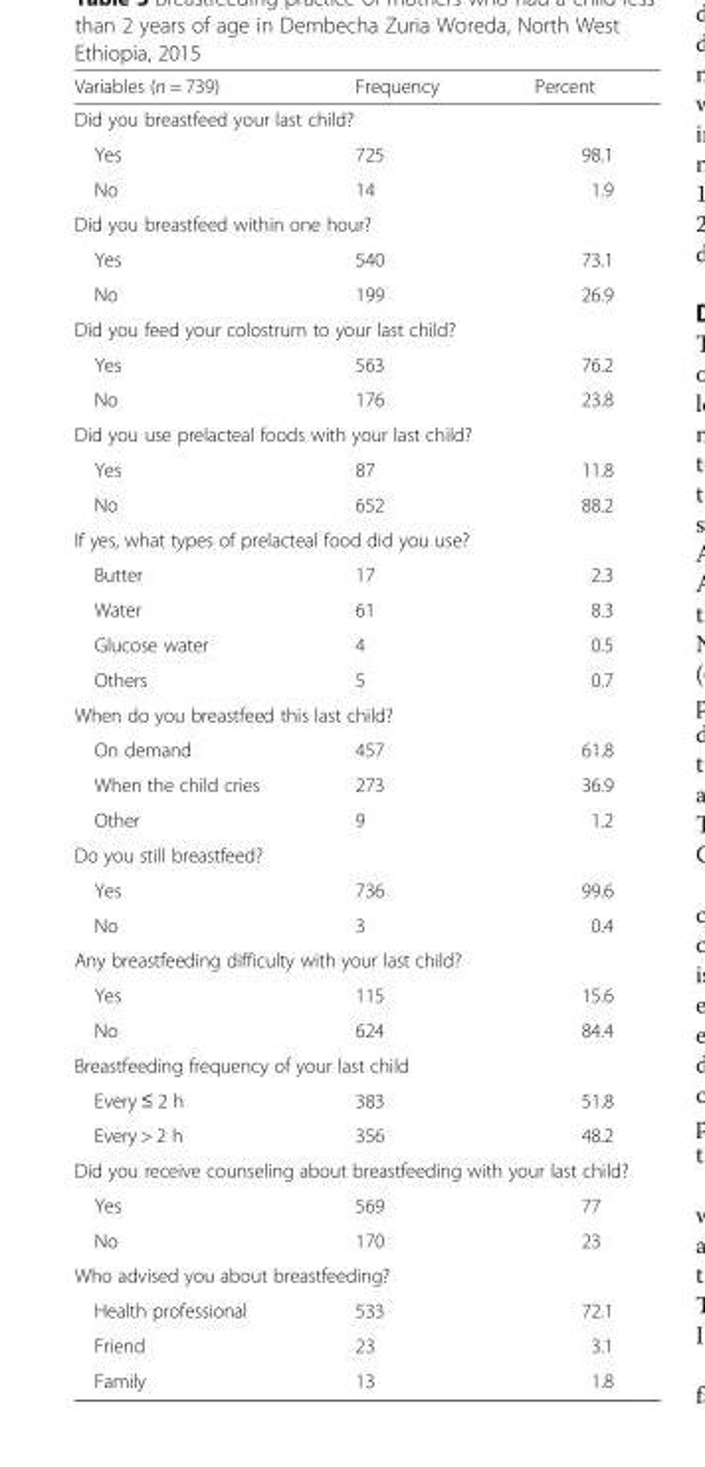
<table><thead><tr><td>Variables (n = 739)</td><td>Frequency</td><td>Percent</td></tr></thead><tbody><tr><td colspan="3">Did you breastfeed your last child?</td></tr><tr><td>Yes</td><td>725</td><td>98.1</td></tr><tr><td>No</td><td>14</td><td>1.9</td></tr><tr><td colspan="3">Did you breastfeed within one hour?</td></tr><tr><td>Yes</td><td>540</td><td>73.1</td></tr><tr><td>No</td><td>199</td><td>26.9</td></tr><tr><td colspan="3">Did you feed your colostrum to your last child?</td></tr><tr><td>Yes</td><td>563</td><td>76.2</td></tr><tr><td>No</td><td>176</td><td>23.8</td></tr><tr><td colspan="3">Did you use prelacteal foods with your last child?</td></tr><tr><td>Yes</td><td>87</td><td>11.8</td></tr><tr><td>No</td><td>652</td><td>88.2</td></tr><tr><td colspan="3">If yes, what types of prelacteal food did you use?</td></tr><tr><td>Butter</td><td>17</td><td>2.3</td></tr><tr><td>Water</td><td>61</td><td>8.3</td></tr><tr><td>Glucose water</td><td>4</td><td>0.5</td></tr><tr><td>Others</td><td>5</td><td>0.7</td></tr><tr><td colspan="3">When do you breastfeed this last child?</td></tr><tr><td>On demand</td><td>457</td><td>61.8</td></tr><tr><td>When the child cries</td><td>273</td><td>36.9</td></tr><tr><td>Other</td><td>9</td><td>1.2</td></tr><tr><td colspan="3">Do you still breastfeed?</td></tr><tr><td>Yes</td><td>736</td><td>99.6</td></tr><tr><td>No</td><td>3</td><td>0.4</td></tr><tr><td colspan="3">Any breastfeeding difficulty with your last child?</td></tr><tr><td>Yes</td><td>115</td><td>15.6</td></tr><tr><td>No</td><td>624</td><td>84.4</td></tr><tr><td colspan="3">Breastfeeding frequency of your last child</td></tr><tr><td>Every ≤ 2 h</td><td>383</td><td>51.8</td></tr><tr><td>Every &gt; 2 h</td><td>356</td><td>48.2</td></tr><tr><td colspan="3">Did you receive counseling about breastfeeding with your last child?</td></tr><tr><td>Yes</td><td>569</td><td>77</td></tr><tr><td>No</td><td>170</td><td>23</td></tr><tr><td colspan="3">Who advised you about breastfeeding?</td></tr><tr><td>Health professional</td><td>533</td><td>72.1</td></tr><tr><td>Friend</td><td>23</td><td>3.1</td></tr><tr><td>Family</td><td>13</td><td>1.8</td></tr></tbody></table>